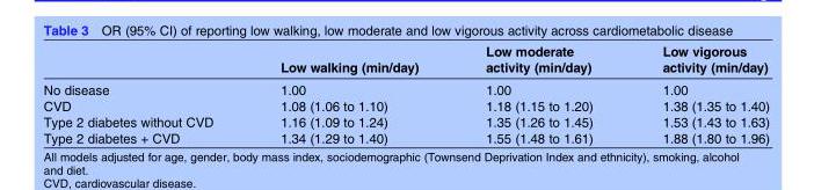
<table><thead><tr><td></td><td>Low walking (min/day)</td><td>Low moderate activity (min/day)</td><td>Low vigorous activity (min/day)</td></tr></thead><tbody><tr><td>No disease</td><td>1.00</td><td>1.00</td><td>1.00</td></tr><tr><td>CVD</td><td>1.08 (1.06 to 1.10)</td><td>1.18 (1.15 to 1.20)</td><td>1.38 (1.35 to 1.40)</td></tr><tr><td>Type 2 diabetes without CVD</td><td>1.16 (1.09 to 1.24)</td><td>1.35 (1.26 to 1.45)</td><td>1.53 (1.43 to 1.63)</td></tr><tr><td>Type 2 diabetes + CVD</td><td>1.34 (1.29 to 1.40)</td><td>1.55 (1.48 to 1.61)</td><td>1.88 (1.80 to 1.96)</td></tr></tbody></table>